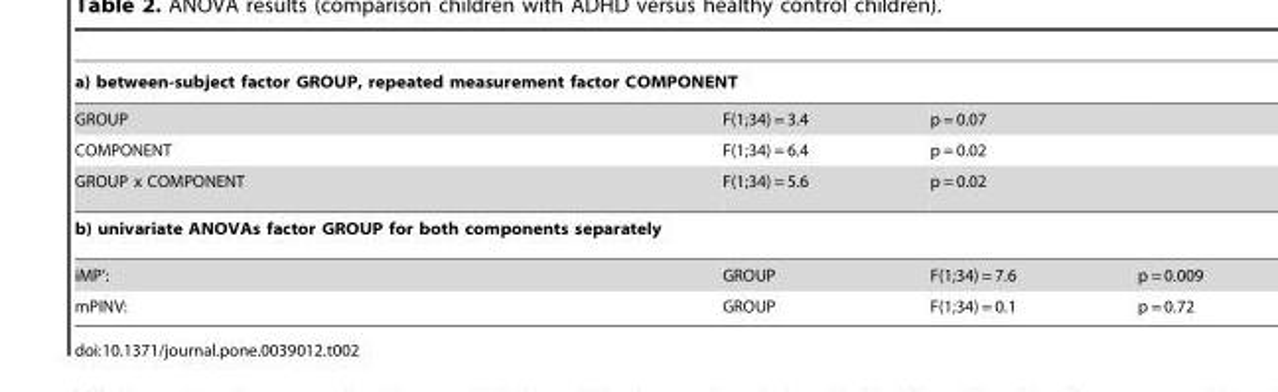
<table><thead><tr><td colspan="4">a) between-subject factor GROUP, repeated measurement factor COMPONENT</td></tr><tr><td>GROUP</td><td>F(1;34) = 3.4</td><td>p = 0.07</td><td></td></tr></thead><tbody><tr><td>COMPONENT</td><td>F(1;34) = 6.4</td><td>p = 0.02</td><td></td></tr><tr><td>GROUP x COMPONENT</td><td>F(1;34) = 5.6</td><td>p = 0.02</td><td></td></tr><tr><td colspan="4">b) univariate ANOVAs factor GROUP for both components separately</td></tr><tr><td>iMP’:</td><td>GROUP</td><td>F(1;34) = 7.6</td><td>p = 0.009</td></tr><tr><td>mPINV:</td><td>GROUP</td><td>F(1;34) = 0.1</td><td>p = 0.72</td></tr></tbody></table>